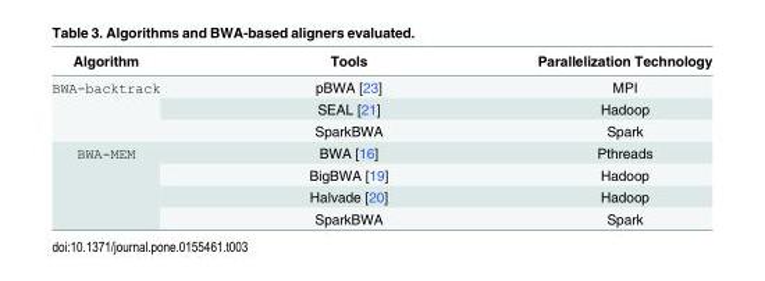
<table><thead><tr><td>Algorithm</td><td>Tools</td><td>Parallelization Technology</td></tr></thead><tbody><tr><td rowspan="3">BWA-backtrack</td><td>pBWA [23]</td><td>MPI</td></tr><tr><td>SEAL [21]</td><td>Hadoop</td></tr><tr><td>SparkBWA</td><td>Spark</td></tr><tr><td rowspan="4">BWA-MEM</td><td>BWA [16]</td><td>Pthreads</td></tr><tr><td>BigBWA [19]</td><td>Hadoop</td></tr><tr><td>Halvade [20]</td><td>Hadoop</td></tr><tr><td>SparkBWA</td><td>Spark</td></tr></tbody></table>